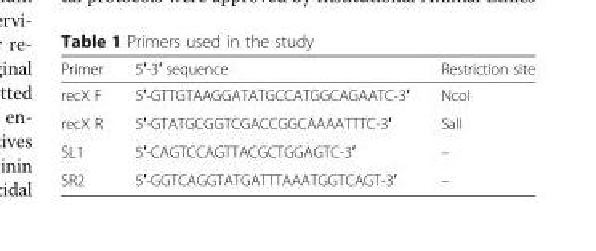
<table><thead><tr><td>Primer</td><td>5′-3′ sequence</td><td>Restriction site</td></tr></thead><tbody><tr><td>recX F</td><td>5′-GTTGTAAGGATATGCCATGGCAGAATC-3′</td><td>NcoI</td></tr><tr><td>recX R</td><td>5′-GTATGCGGTCGACCGGCAAAATTTC-3′</td><td>SalI</td></tr><tr><td>SL1</td><td>5′-CAGTCCAGTTACGCTGGAGTC-3′</td><td>–</td></tr><tr><td>SR2</td><td>5′-GGTCAGGTATGATTTAAATGGTCAGT-3′</td><td>–</td></tr></tbody></table>